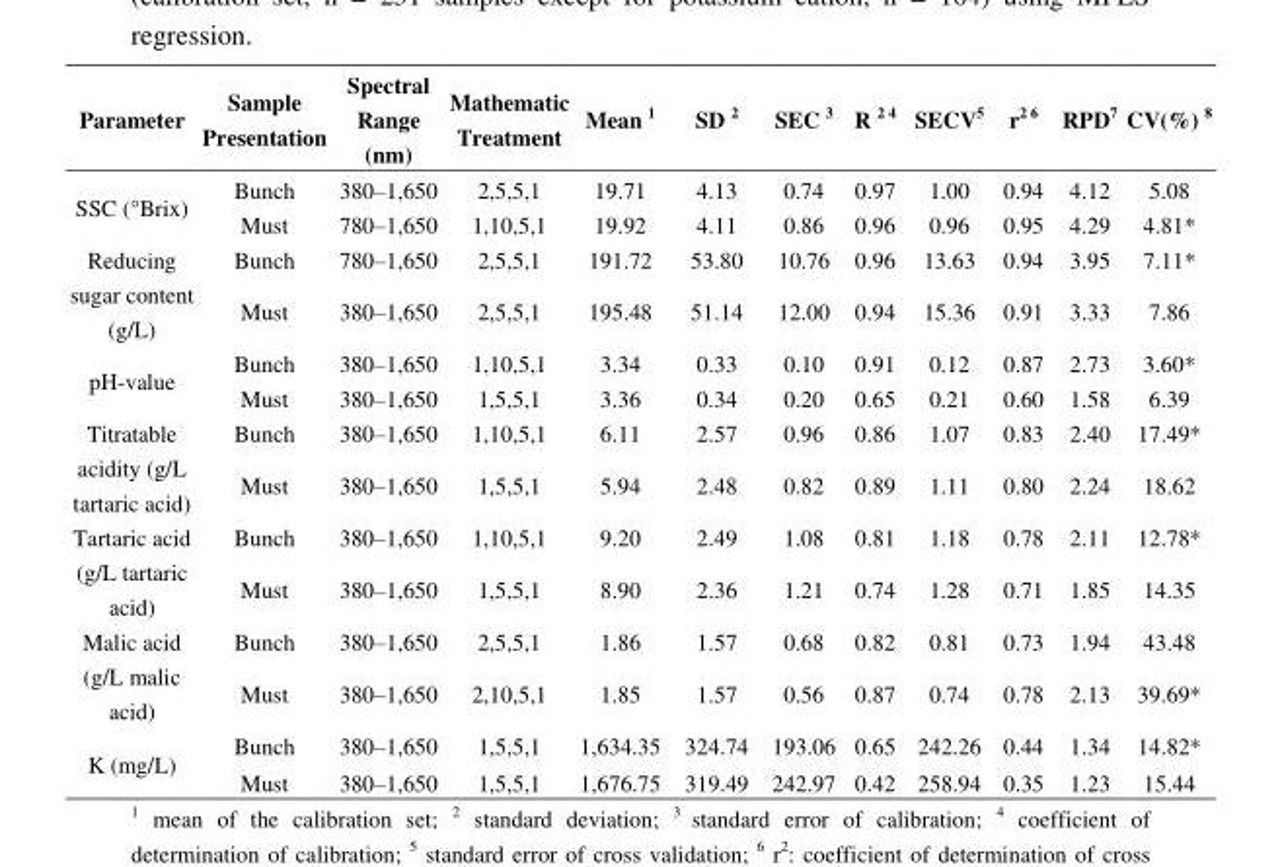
<table><thead><tr><td>Parameter</td><td>Sample Presentation</td><td>Spectral Range (nm)</td><td>Mathematic Treatment</td><td>Mean <sup>1</sup></td><td>SD <sup>2</sup></td><td>SEC <sup>3</sup></td><td>R <sup>2 4</sup></td><td>SECV<sup>5</sup></td><td>r<sup>2 6</sup></td><td>RPD<sup>7</sup></td><td>CV(%) <sup>8</sup></td></tr></thead><tbody><tr><td rowspan="2">SSC (°Brix)</td><td>Bunch</td><td>380–1,650</td><td>2,5,5,1</td><td>19.71</td><td>4.13</td><td>0.74</td><td>0.97</td><td>1.00</td><td>0.94</td><td>4.12</td><td>5.08</td></tr><tr><td>Must</td><td>780–1,650</td><td>1,10,5,1</td><td>19.92</td><td>4.11</td><td>0.86</td><td>0.96</td><td>0.96</td><td>0.95</td><td>4.29</td><td>4.81*</td></tr><tr><td rowspan="2">Reducing sugar content (g/L)</td><td>Bunch</td><td>780–1,650</td><td>2,5,5,1</td><td>191.72</td><td>53.80</td><td>10.76</td><td>0.96</td><td>13.63</td><td>0.94</td><td>3.95</td><td>7.11*</td></tr><tr><td>Must</td><td>380–1,650</td><td>2,5,5,1</td><td>195.48</td><td>51.14</td><td>12.00</td><td>0.94</td><td>15.36</td><td>0.91</td><td>3.33</td><td>7.86</td></tr><tr><td rowspan="2">pH-value</td><td>Bunch</td><td>380–1,650</td><td>1,10,5,1</td><td>3.34</td><td>0.33</td><td>0.10</td><td>0.91</td><td>0.12</td><td>0.87</td><td>2.73</td><td>3.60*</td></tr><tr><td>Must</td><td>380–1,650</td><td>1,5,5,1</td><td>3.36</td><td>0.34</td><td>0.20</td><td>0.65</td><td>0.21</td><td>0.60</td><td>1.58</td><td>6.39</td></tr><tr><td rowspan="2">Titratable acidity (g/L tartaric acid)</td><td>Bunch</td><td>380–1,650</td><td>1,10,5,1</td><td>6.11</td><td>2.57</td><td>0.96</td><td>0.86</td><td>1.07</td><td>0.83</td><td>2.40</td><td>17.49*</td></tr><tr><td>Must</td><td>380–1,650</td><td>1,5,5,1</td><td>5.94</td><td>2.48</td><td>0.82</td><td>0.89</td><td>1.11</td><td>0.80</td><td>2.24</td><td>18.62</td></tr><tr><td rowspan="2">Tartaric acid (g/L tartaric acid)</td><td>Bunch</td><td>380–1,650</td><td>1,10,5,1</td><td>9.20</td><td>2.49</td><td>1.08</td><td>0.81</td><td>1.18</td><td>0.78</td><td>2.11</td><td>12.78*</td></tr><tr><td>Must</td><td>380–1,650</td><td>1,5,5,1</td><td>8.90</td><td>2.36</td><td>1.21</td><td>0.74</td><td>1.28</td><td>0.71</td><td>1.85</td><td>14.35</td></tr><tr><td rowspan="2">Malic acid (g/L malic acid)</td><td>Bunch</td><td>380–1,650</td><td>2,5,5,1</td><td>1.86</td><td>1.57</td><td>0.68</td><td>0.82</td><td>0.81</td><td>0.73</td><td>1.94</td><td>43.48</td></tr><tr><td>Must</td><td>380–1,650</td><td>2,10,5,1</td><td>1.85</td><td>1.57</td><td>0.56</td><td>0.87</td><td>0.74</td><td>0.78</td><td>2.13</td><td>39.69*</td></tr><tr><td rowspan="2">K (mg/L)</td><td>Bunch</td><td>380–1,650</td><td>1,5,5,1</td><td>1,634.35</td><td>324.74</td><td>193.06</td><td>0.65</td><td>242.26</td><td>0.44</td><td>1.34</td><td>14.82*</td></tr><tr><td>Must</td><td>380–1,650</td><td>1,5,5,1</td><td>1,676.75</td><td>319.49</td><td>242.97</td><td>0.42</td><td>258.94</td><td>0.35</td><td>1.23</td><td>15.44</td></tr></tbody></table>